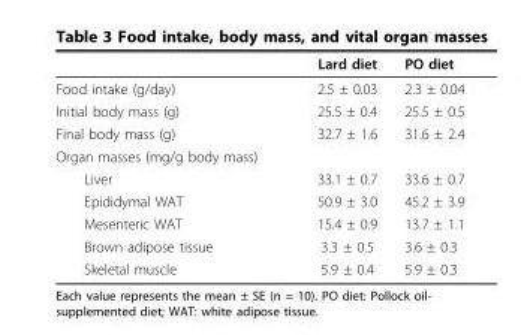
<table><thead><tr><td></td><td>Lard diet</td><td>PO diet</td></tr></thead><tbody><tr><td>Food intake (g/day)</td><td>2.5 ± 0.03</td><td>2.3 ± 0.04</td></tr><tr><td>Initial body mass (g)</td><td>25.5 ± 0.4</td><td>25.5 ± 0.5</td></tr><tr><td>Final body mass (g)</td><td>32.7 ± 1.6</td><td>31.6 ± 2.4</td></tr><tr><td colspan="3">Organ masses (mg/g body mass)</td></tr><tr><td>Liver</td><td>33.1 ± 0.7</td><td>33.6 ± 0.7</td></tr><tr><td>Epididymal WAT</td><td>50.9 ± 3.0</td><td>45.2 ± 3.9</td></tr><tr><td>Mesenteric WAT</td><td>15.4 ± 0.9</td><td>13.7 ± 1.1</td></tr><tr><td>Brown adipose tissue</td><td>3.3 ± 0.5</td><td>3.6 ± 0.3</td></tr><tr><td>Skeletal muscle</td><td>5.9 ± 0.4</td><td>5.9 ± 0.3</td></tr></tbody></table>